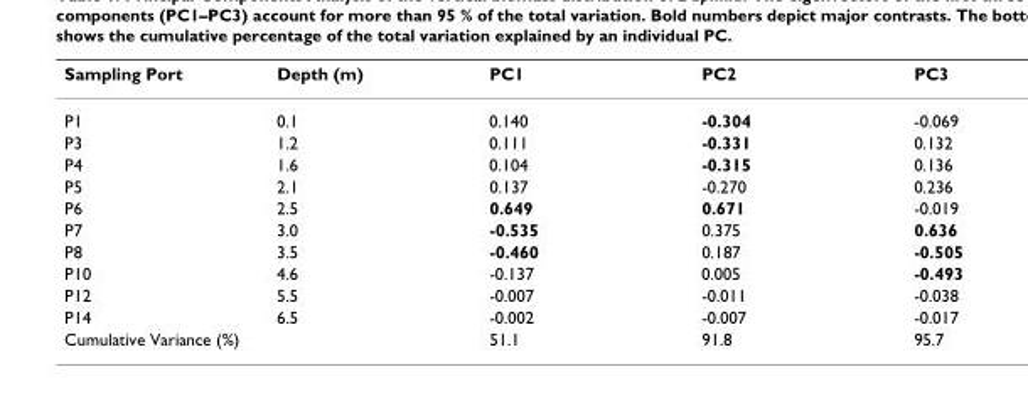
<table><thead><tr><td>Sampling Port</td><td>Depth (m)</td><td>PC1</td><td>PC2</td><td>PC3</td></tr></thead><tbody><tr><td>P1</td><td>0.1</td><td>0.140</td><td>-0.304</td><td>-0.069</td></tr><tr><td>P3</td><td>1.2</td><td>0.111</td><td>-0.331</td><td>0.132</td></tr><tr><td>P4</td><td>1.6</td><td>0.104</td><td>-0.315</td><td>0.136</td></tr><tr><td>P5</td><td>2.1</td><td>0.137</td><td>-0.270</td><td>0.236</td></tr><tr><td>P6</td><td>2.5</td><td>0.649</td><td>0.671</td><td>-0.019</td></tr><tr><td>P7</td><td>3.0</td><td>-0.535</td><td>0.375</td><td>0.636</td></tr><tr><td>P8</td><td>3.5</td><td>-0.460</td><td>0.187</td><td>-0.505</td></tr><tr><td>P10</td><td>4.6</td><td>-0.137</td><td>0.005</td><td>-0.493</td></tr><tr><td>P12</td><td>5.5</td><td>-0.007</td><td>-0.011</td><td>-0.038</td></tr><tr><td>P14</td><td>6.5</td><td>-0.002</td><td>-0.007</td><td>-0.017</td></tr><tr><td>Cumulative Variance (%)</td><td></td><td>51.1</td><td>91.8</td><td>95.7</td></tr></tbody></table>